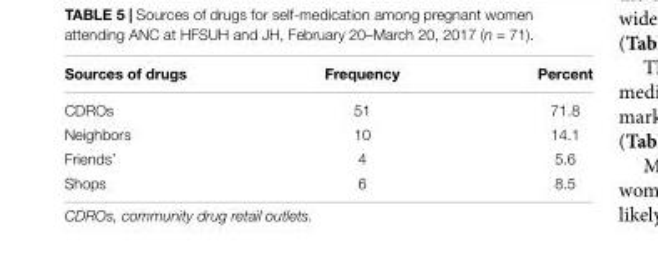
<table><thead><tr><td>Sources of drugs</td><td>Frequency</td><td>Percent</td></tr></thead><tbody><tr><td>CDROs</td><td>51</td><td>71.8</td></tr><tr><td>Neighbors</td><td>10</td><td>14.1</td></tr><tr><td>Friends’</td><td>4</td><td>5.6</td></tr><tr><td>Shops</td><td>6</td><td>8.5</td></tr></tbody></table>